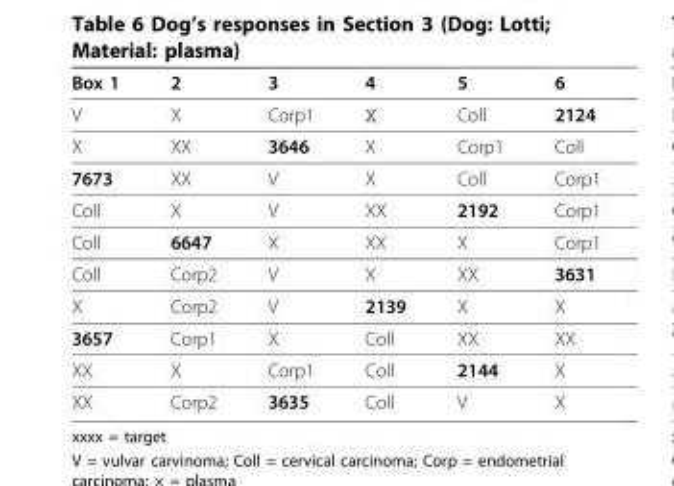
<table><thead><tr><td>Box 1</td><td>2</td><td>3</td><td>4</td><td>5</td><td>6</td></tr></thead><tbody><tr><td>V</td><td>X</td><td>Corp1</td><td>X</td><td>Coll</td><td>2124</td></tr><tr><td>X</td><td>XX</td><td>3646</td><td>X</td><td>Corp1</td><td>Coll</td></tr><tr><td>7673</td><td>XX</td><td>V</td><td>X</td><td>Coll</td><td>Corp1</td></tr><tr><td>Coll</td><td>X</td><td>V</td><td>XX</td><td>2192</td><td>Corp1</td></tr><tr><td>Coll</td><td>6647</td><td>X</td><td>XX</td><td>X</td><td>Corp1</td></tr><tr><td>Coll</td><td>Corp2</td><td>V</td><td>X</td><td>XX</td><td>3631</td></tr><tr><td>X</td><td>Corp2</td><td>V</td><td>2139</td><td>X</td><td>X</td></tr><tr><td>3657</td><td>Corp1</td><td>X</td><td>Coll</td><td>XX</td><td>XX</td></tr><tr><td>XX</td><td>X</td><td>Corp1</td><td>Coll</td><td>2144</td><td>X</td></tr><tr><td>XX</td><td>Corp2</td><td>3635</td><td>Coll</td><td>V</td><td>X</td></tr></tbody></table>